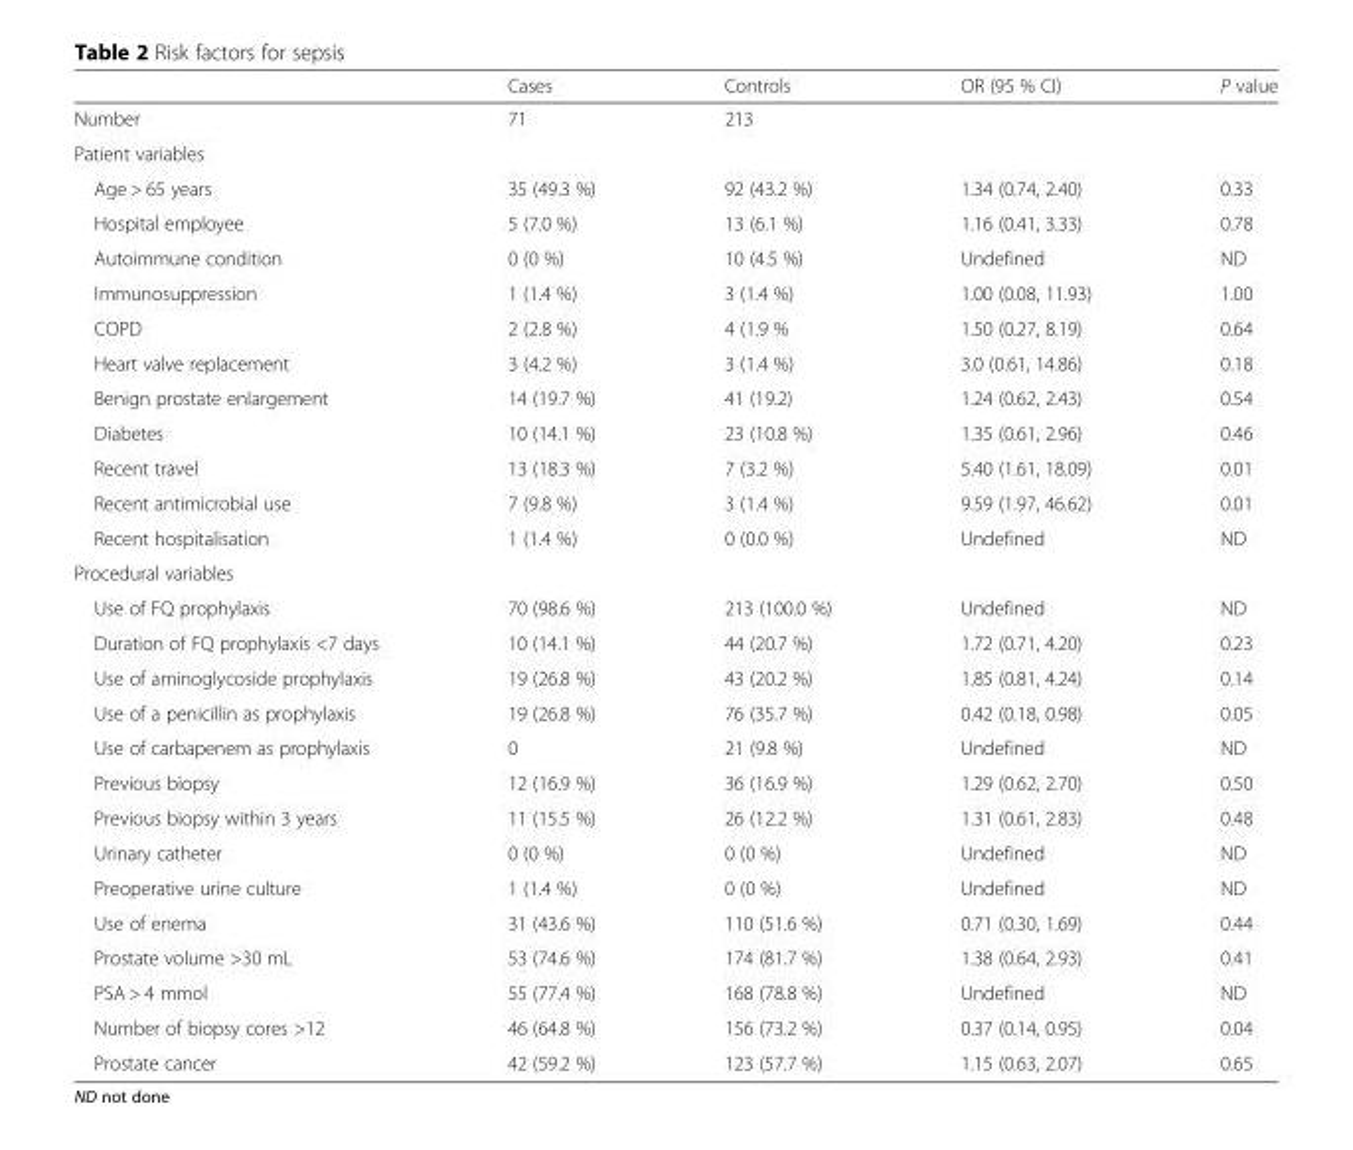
<table><thead><tr><td></td><td>Cases</td><td>Controls</td><td>OR (95 % CI)</td><td>P value</td></tr></thead><tbody><tr><td>Number</td><td>71</td><td>213</td><td></td><td></td></tr><tr><td colspan="5">Patient variables</td></tr><tr><td>Age &gt; 65 years</td><td>35 (49.3 %)</td><td>92 (43.2 %)</td><td>1.34 (0.74, 2.40)</td><td>0.33</td></tr><tr><td>Hospital employee</td><td>5 (7.0 %)</td><td>13 (6.1 %)</td><td>1.16 (0.41, 3.33)</td><td>0.78</td></tr><tr><td>Autoimmune condition</td><td>0 (0 %)</td><td>10 (4.5 %)</td><td>Undefined</td><td>ND</td></tr><tr><td>Immunosuppression</td><td>1 (1.4 %)</td><td>3 (1.4 %)</td><td>1.00 (0.08, 11.93)</td><td>1.00</td></tr><tr><td>COPD</td><td>2 (2.8 %)</td><td>4 (1.9 %</td><td>1.50 (0.27, 8.19)</td><td>0.64</td></tr><tr><td>Heart valve replacement</td><td>3 (4.2 %)</td><td>3 (1.4 %)</td><td>3.0 (0.61, 14.86)</td><td>0.18</td></tr><tr><td>Benign prostate enlargement</td><td>14 (19.7 %)</td><td>41 (19.2)</td><td>1.24 (0.62, 2.43)</td><td>0.54</td></tr><tr><td>Diabetes</td><td>10 (14.1 %)</td><td>23 (10.8 %)</td><td>1.35 (0.61, 2.96)</td><td>0.46</td></tr><tr><td>Recent travel</td><td>13 (18.3 %)</td><td>7 (3.2 %)</td><td>5.40 (1.61, 18.09)</td><td>0.01</td></tr><tr><td>Recent antimicrobial use</td><td>7 (9.8 %)</td><td>3 (1.4 %)</td><td>9.59 (1.97, 46.62)</td><td>0.01</td></tr><tr><td>Recent hospitalisation</td><td>1 (1.4 %)</td><td>0 (0.0 %)</td><td>Undefined</td><td>ND</td></tr><tr><td colspan="5">Procedural variables</td></tr><tr><td>Use of FQ prophylaxis</td><td>70 (98.6 %)</td><td>213 (100.0 %)</td><td>Undefined</td><td>ND</td></tr><tr><td>Duration of FQ prophylaxis &lt;7 days</td><td>10 (14.1 %)</td><td>44 (20.7 %)</td><td>1.72 (0.71, 4.20)</td><td>0.23</td></tr><tr><td>Use of aminoglycoside prophylaxis</td><td>19 (26.8 %)</td><td>43 (20.2 %)</td><td>1.85 (0.81, 4.24)</td><td>0.14</td></tr><tr><td>Use of a penicillin as prophylaxis</td><td>19 (26.8 %)</td><td>76 (35.7 %)</td><td>0.42 (0.18, 0.98)</td><td>0.05</td></tr><tr><td>Use of carbapenem as prophylaxis</td><td>0</td><td>21 (9.8 %)</td><td>Undefined</td><td>ND</td></tr><tr><td>Previous biopsy</td><td>12 (16.9 %)</td><td>36 (16.9 %)</td><td>1.29 (0.62, 2.70)</td><td>0.50</td></tr><tr><td>Previous biopsy within 3 years</td><td>11 (15.5 %)</td><td>26 (12.2 %)</td><td>1.31 (0.61, 2.83)</td><td>0.48</td></tr><tr><td>Urinary catheter</td><td>0 (0 %)</td><td>0 (0 %)</td><td>Undefined</td><td>ND</td></tr><tr><td>Preoperative urine culture</td><td>1 (1.4 %)</td><td>0 (0 %)</td><td>Undefined</td><td>ND</td></tr><tr><td>Use of enema</td><td>31 (43.6 %)</td><td>110 (51.6 %)</td><td>0.71 (0.30, 1.69)</td><td>0.44</td></tr><tr><td>Prostate volume &gt;30 mL</td><td>53 (74.6 %)</td><td>174 (81.7 %)</td><td>1.38 (0.64, 2.93)</td><td>0.41</td></tr><tr><td>PSA &gt; 4 mmol</td><td>55 (77.4 %)</td><td>168 (78.8 %)</td><td>Undefined</td><td>ND</td></tr><tr><td>Number of biopsy cores &gt;12</td><td>46 (64.8 %)</td><td>156 (73.2 %)</td><td>0.37 (0.14, 0.95)</td><td>0.04</td></tr><tr><td>Prostate cancer</td><td>42 (59.2 %)</td><td>123 (57.7 %)</td><td>1.15 (0.63, 2.07)</td><td>0.65</td></tr></tbody></table>